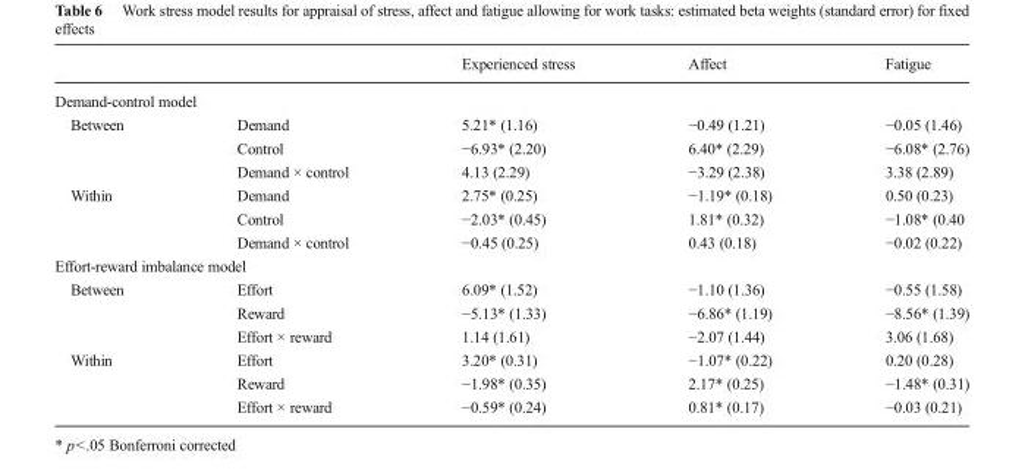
<table><thead><tr><td></td><td></td><td>Experienced stress</td><td>Affect</td><td>Fatigue</td></tr></thead><tbody><tr><td colspan="5">Demand-control model</td></tr><tr><td rowspan="3">Between</td><td>Demand</td><td>5.21* (1.16)</td><td>−0.49 (1.21)</td><td>−0.05 (1.46)</td></tr><tr><td>Control</td><td>−6.93* (2.20)</td><td>6.40* (2.29)</td><td>−6.08* (2.76)</td></tr><tr><td>Demand × control</td><td>4.13 (2.29)</td><td>−3.29 (2.38)</td><td>3.38 (2.89)</td></tr><tr><td rowspan="3">Within</td><td>Demand</td><td>2.75* (0.25)</td><td>−1.19* (0.18)</td><td>0.50 (0.23)</td></tr><tr><td>Control</td><td>−2.03* (0.45)</td><td>1.81* (0.32)</td><td>−1.08* (0.40</td></tr><tr><td>Demand × control</td><td>−0.45 (0.25)</td><td>0.43 (0.18)</td><td>−0.02 (0.22)</td></tr><tr><td colspan="5">Effort-reward imbalance model</td></tr><tr><td rowspan="3">Between</td><td>Effort</td><td>6.09* (1.52)</td><td>−1.10 (1.36)</td><td>−0.55 (1.58)</td></tr><tr><td>Reward</td><td>−5.13* (1.33)</td><td>−6.86* (1.19)</td><td>−8.56* (1.39)</td></tr><tr><td>Effort × reward</td><td>1.14 (1.61)</td><td>−2.07 (1.44)</td><td>3.06 (1.68)</td></tr><tr><td rowspan="3">Within</td><td>Effort</td><td>3.20* (0.31)</td><td>−1.07* (0.22)</td><td>0.20 (0.28)</td></tr><tr><td>Reward</td><td>−1.98* (0.35)</td><td>2.17* (0.25)</td><td>−1.48* (0.31)</td></tr><tr><td>Effort × reward</td><td>−0.59* (0.24)</td><td>0.81* (0.17)</td><td>−0.03 (0.21)</td></tr></tbody></table>